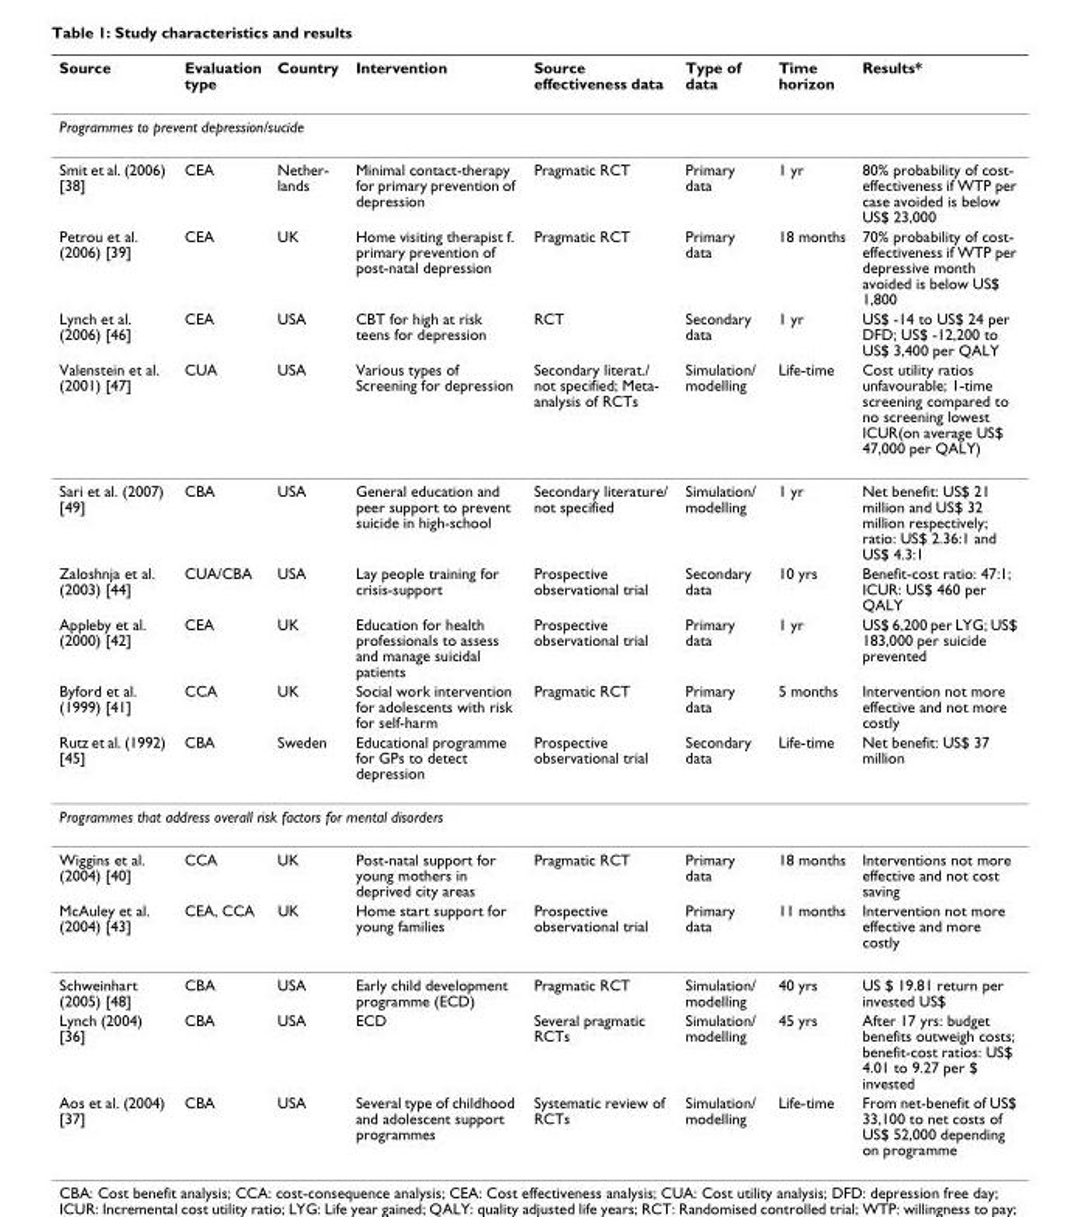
<table><thead><tr><td>Source</td><td>Evaluation type</td><td>Country</td><td>Intervention</td><td>Source effectiveness data</td><td>Type of data</td><td>Time horizon</td><td>Results*</td></tr></thead><tbody><tr><td colspan="8">Programmes to prevent depression/sucide</td></tr><tr><td>Smit et al. (2006) [38]</td><td>CEA</td><td>Nether- lands</td><td>Minimal contact-therapy for primary prevention of depression</td><td>Pragmatic RCT</td><td>Primary data</td><td>1 yr</td><td>80% probability of cost- effectiveness if WTP per case avoided is below US$ 23,000</td></tr><tr><td>Petrou et al. (2006) [39]</td><td>CEA</td><td>UK</td><td>Home visiting therapist f. primary prevention of post-natal depression</td><td>Pragmatic RCT</td><td>Primary data</td><td>18 months</td><td>70% probability of cost- effectiveness if WTP per depressive month avoided is below US$ 1,800</td></tr><tr><td>Lynch et al. (2006) [46]</td><td>CEA</td><td>USA</td><td>CBT for high at risk teens for depression</td><td>RCT</td><td>Secondary data</td><td>1 yr</td><td>US$ -14 to US$ 24 per DFD; US$ -12,200 to US$ 3,400 per QALY</td></tr><tr><td>Valenstein et al. (2001) [47]</td><td>CUA</td><td>USA</td><td>Various types of Screening for depression</td><td>Secondary literat./ not specified; Meta- analysis of RCTs</td><td>Simulation/ modelling</td><td>Life-time</td><td>Cost utility ratios unfavourable; 1-time screening compared to no screening lowest ICUR(on average US$ 47,000 per QALY)</td></tr><tr><td>Sari et al. (2007) [49]</td><td>CBA</td><td>USA</td><td>General education and peer support to prevent suicide in high-school</td><td>Secondary literature/ not specified</td><td>Simulation/ modelling</td><td>1 yr</td><td>Net benefit: US$ 21 million and US$ 32 million respectively; ratio: US$ 2.36:1 and US$ 4.3:1</td></tr><tr><td>Zaloshnja et al. (2003) [44]</td><td>CUA/CBA</td><td>USA</td><td>Lay people training for crisis-support</td><td>Prospective observational trial</td><td>Secondary data</td><td>10 yrs</td><td>Benefit-cost ratio: 47:1; ICUR: US$ 460 per QALY</td></tr><tr><td>Appleby et al. (2000) [42]</td><td>CEA</td><td>UK</td><td>Education for health professionals to assess and manage suicidal patients</td><td>Prospective observational trial</td><td>Primary data</td><td>1 yr</td><td>US$ 6,200 per LYG; US$ 183,000 per suicide prevented</td></tr><tr><td>Byford et al. (1999) [41]</td><td>CCA</td><td>UK</td><td>Social work intervention for adolescents with risk for self-harm</td><td>Pragmatic RCT</td><td>Primary data</td><td>5 months</td><td>Intervention not more effective and not more costly</td></tr><tr><td>Rutz et al. (1992) [45]</td><td>CBA</td><td>Sweden</td><td>Educational programme for GPs to detect depression</td><td>Prospective observational trial</td><td>Secondary data</td><td>Life-time</td><td>Net benefit: US$ 37 million</td></tr><tr><td colspan="8">Programmes that address overall risk factors for mental disorders</td></tr><tr><td>Wiggins et al. (2004) [40]</td><td>CCA</td><td>UK</td><td>Post-natal support for young mothers in deprived city areas</td><td>Pragmatic RCT</td><td>Primary data</td><td>18 months</td><td>Interventions not more effective and not cost saving</td></tr><tr><td>McAuley et al. (2004) [43]</td><td>CEA, CCA</td><td>UK</td><td>Home start support for young families</td><td>Prospective observational trial</td><td>Primary data</td><td>11 months</td><td>Intervention not more effective and more costly</td></tr><tr><td>Schweinhart (2005) [48]</td><td>CBA</td><td>USA</td><td>Early child development programme (ECD)</td><td>Pragmatic RCT</td><td>Simulation/ modelling</td><td>40 yrs</td><td>US $ 19.81 return per invested US$</td></tr><tr><td>Lynch (2004) [36]</td><td>CBA</td><td>USA</td><td>ECD</td><td>Several pragmatic RCTs</td><td>Simulation/ modelling</td><td>45 yrs</td><td>After 17 yrs: budget benefits outweigh costs; benefit-cost ratios: US$ 4.01 to 9.27 per $ invested</td></tr><tr><td>Aos et al. (2004) [37]</td><td>CBA</td><td>USA</td><td>Several type of childhood and adolescent support programmes</td><td>Systematic review of RCTs</td><td>Simulation/ modelling</td><td>Life-time</td><td>From net-benefit of US$ 33,100 to net costs of US$ 52,000 depending on programme</td></tr></tbody></table>